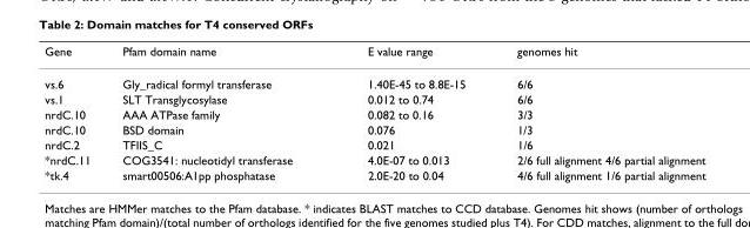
<table><thead><tr><td>Gene</td><td>Pfam domain name</td><td>E value range</td><td>genomes hit</td></tr></thead><tbody><tr><td>vs.6</td><td>Gly_radical formyl transferase</td><td>1.40E-45 to 8.8E-15</td><td>6/6</td></tr><tr><td>vs.1</td><td>SLT Transglycosylase</td><td>0.012 to 0.74</td><td>6/6</td></tr><tr><td>nrdC.10</td><td>AAA ATPase family</td><td>0.082 to 0.16</td><td>3/3</td></tr><tr><td>nrdC.10</td><td>BSD domain</td><td>0.076</td><td>1/3</td></tr><tr><td>nrdC.2</td><td>TFIIS_C</td><td>0.021</td><td>1/6</td></tr><tr><td>*nrdC.11</td><td>COG3541: nucleotidyl transferase</td><td>4.0E-07 to 0.013</td><td>2/6 full alignment 4/6 partial alignment</td></tr><tr><td>*tk.4</td><td>smart00506:A1pp phosphatase</td><td>2.0E-20 to 0.04</td><td>4/6 full alignment 1/6 partial alignment</td></tr></tbody></table>